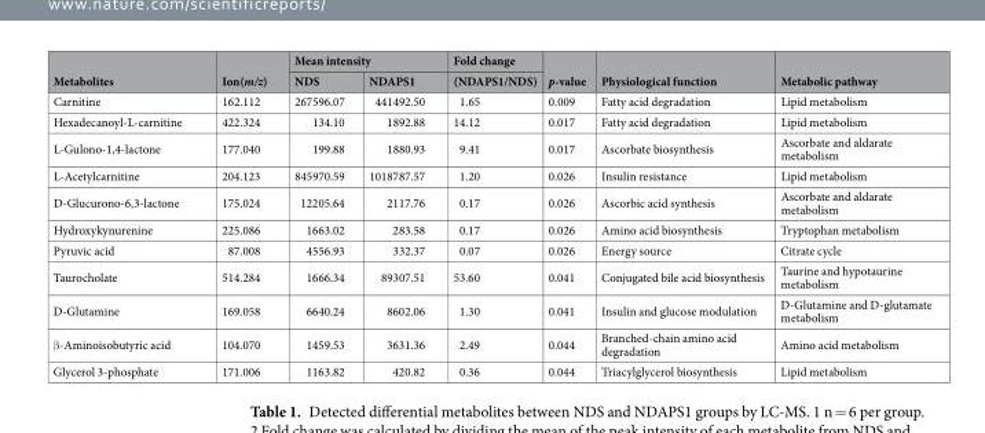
<table><thead><tr><td rowspan="2">Metabolites</td><td rowspan="2">Ion(m/z)</td><td colspan="2">Mean intensity</td><td rowspan="2">Fold change (NDAPS1/NDS)</td><td rowspan="2">p-value</td><td rowspan="2">Physiological function</td><td rowspan="2">Metabolic pathway</td></tr><tr><td>NDS</td><td>NDAPS1</td></tr></thead><tbody><tr><td>Carnitine</td><td>162.112</td><td>267596.07</td><td>441492.50</td><td>1.65</td><td>0.009</td><td>Fatty acid degradation</td><td>Lipid metabolism</td></tr><tr><td>Hexadecanoyl-L-carnitine</td><td>422.324</td><td>134.10</td><td>1892.88</td><td>14.12</td><td>0.017</td><td>Fatty acid degradation</td><td>Lipid metabolism</td></tr><tr><td>L-Gulono-1,4-lactone</td><td>177.040</td><td>199.88</td><td>1880.93</td><td>9.41</td><td>0.017</td><td>Ascorbate biosynthesis</td><td>Ascorbate and aldarate metabolism</td></tr><tr><td>L-Acetylcarnitine</td><td>204.123</td><td>845970.59</td><td>1018787.57</td><td>1.20</td><td>0.026</td><td>Insulin resistance</td><td>Lipid metabolism</td></tr><tr><td>D-Glucurono-6,3-lactone</td><td>175.024</td><td>12205.64</td><td>2117.76</td><td>0.17</td><td>0.026</td><td>Ascorbic acid synthesis</td><td>Ascorbate and aldarate metabolism</td></tr><tr><td>Hydroxykynurenine</td><td>225.086</td><td>1663.02</td><td>283.58</td><td>0.17</td><td>0.026</td><td>Amino acid biosynthesis</td><td>Tryptophan metabolism</td></tr><tr><td>Pyruvic acid</td><td>87.008</td><td>4556.93</td><td>332.37</td><td>0.07</td><td>0.026</td><td>Energy source</td><td>Citrate cycle</td></tr><tr><td>Taurocholate</td><td>514.284</td><td>1666.34</td><td>89307.51</td><td>53.60</td><td>0.041</td><td>Conjugated bile acid biosynthesis</td><td>Taurine and hypotaurine metabolism</td></tr><tr><td>D-Glutamine</td><td>169.058</td><td>6640.24</td><td>8602.06</td><td>1.30</td><td>0.041</td><td>Insulin and glucose modulation</td><td>D-Glutamine and D-glutamate metabolism</td></tr><tr><td>β-Aminoisobutyric acid</td><td>104.070</td><td>1459.53</td><td>3631.36</td><td>2.49</td><td>0.044</td><td>Branched-chain amino acid degradation</td><td>Amino acid metabolism</td></tr><tr><td>Glycerol 3-phosphate</td><td>171.006</td><td>1163.82</td><td>420.82</td><td>0.36</td><td>0.044</td><td>Triacylglycerol biosynthesis</td><td>Lipid metabolism</td></tr></tbody></table>